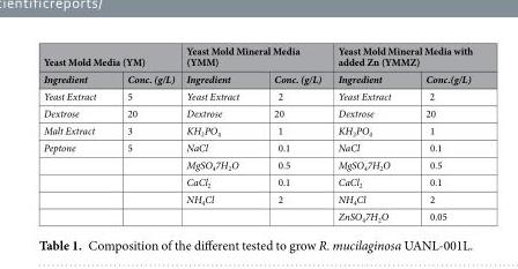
<table><thead><tr><td colspan="2">Yeast Mold Media (YM)</td><td colspan="2">Yeast Mold Mineral Media (YMM)</td><td colspan="2">Yeast Mold Mineral Media with added Zn (YMMZ)</td></tr><tr><td>Ingredient</td><td>Conc. (g/L)</td><td>Ingredient</td><td>Conc. (g/L)</td><td>Ingredient</td><td>Conc.(g/L)</td></tr></thead><tbody><tr><td>Yeast Extract</td><td>5</td><td>Yeast Extract</td><td>2</td><td>Yeast Extract</td><td>2</td></tr><tr><td>Dextrose</td><td>20</td><td>Dextrose</td><td>20</td><td>Dextrose</td><td>20</td></tr><tr><td>Malt Extract</td><td>3</td><td>KH<sub>2</sub>PO<sub>4</sub></td><td>1</td><td>KH<sub>2</sub>PO<sub>4</sub></td><td>1</td></tr><tr><td rowspan="5">Peptone</td><td>5</td><td>NaCl</td><td>0.1</td><td>NaCl</td><td>0.1</td></tr><tr><td></td><td>MgSO<sub>4</sub>7H<sub>2</sub>O</td><td>0.5</td><td>MgSO<sub>4</sub>7H<sub>2</sub>O</td><td>0.5</td></tr><tr><td></td><td>CaCl<sub>2</sub></td><td>0.1</td><td>CaCl<sub>2</sub></td><td>0.1</td></tr><tr><td></td><td>NH<sub>4</sub>Cl</td><td>2</td><td>NH<sub>4</sub>Cl</td><td>2</td></tr><tr><td></td><td></td><td></td><td>ZnSO<sub>4</sub>7H<sub>2</sub>O</td><td>0.05</td></tr></tbody></table>